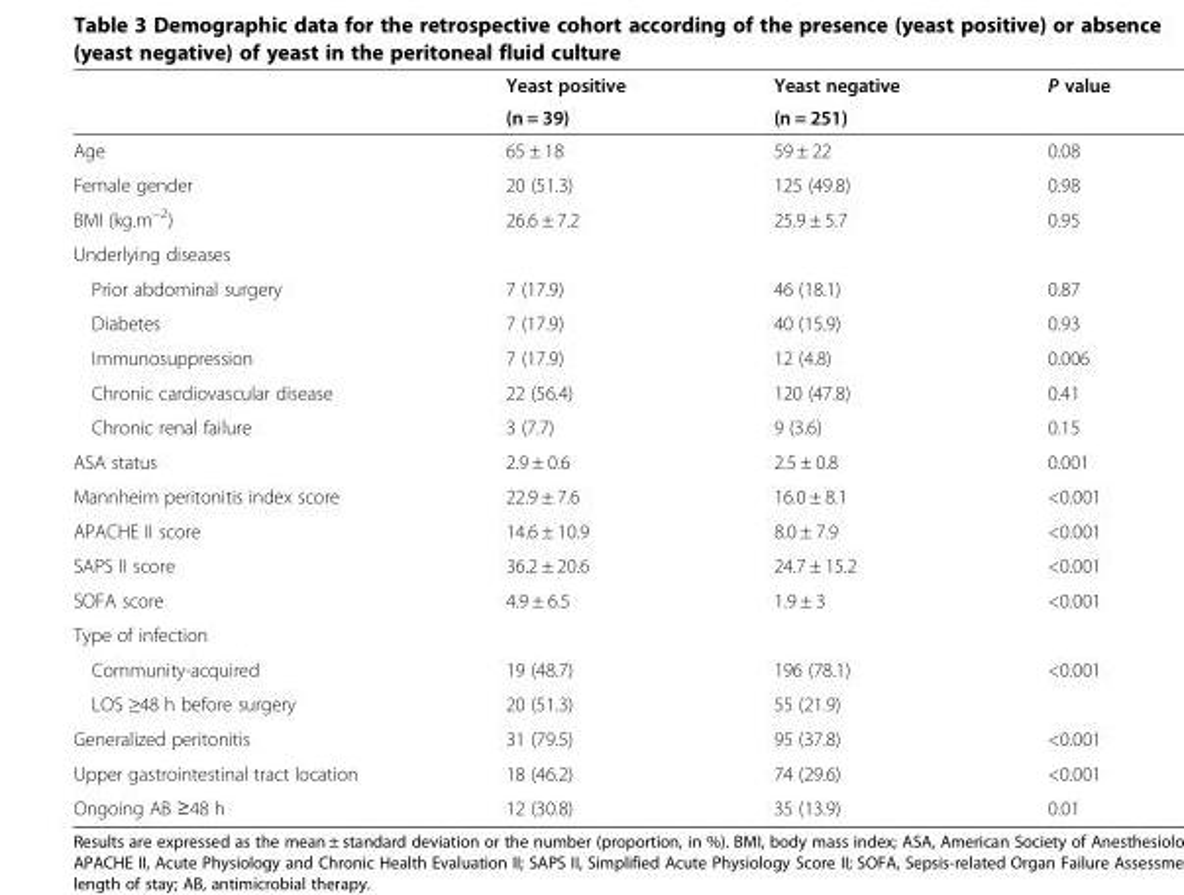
<table><thead><tr><td rowspan="2"></td><td rowspan="2">Yeast positive (n = 39)</td><td rowspan="2">Yeast negative (n = 251)</td><td rowspan="2">P value</td></tr><tr></tr></thead><tbody><tr><td>Age</td><td>65 ± 18</td><td>59 ± 22</td><td>0.08</td></tr><tr><td>Female gender</td><td>20 (51.3)</td><td>125 (49.8)</td><td>0.98</td></tr><tr><td>BMI (kg.m<sup>−2</sup>)</td><td>26.6 ± 7.2</td><td>25.9 ± 5.7</td><td>0.95</td></tr><tr><td colspan="4">Underlying diseases</td></tr><tr><td>Prior abdominal surgery</td><td>7 (17.9)</td><td>46 (18.1)</td><td>0.87</td></tr><tr><td>Diabetes</td><td>7 (17.9)</td><td>40 (15.9)</td><td>0.93</td></tr><tr><td>Immunosuppression</td><td>7 (17.9)</td><td>12 (4.8)</td><td>0.006</td></tr><tr><td>Chronic cardiovascular disease</td><td>22 (56.4)</td><td>120 (47.8)</td><td>0.41</td></tr><tr><td>Chronic renal failure</td><td>3 (7.7)</td><td>9 (3.6)</td><td>0.15</td></tr><tr><td>ASA status</td><td>2.9 ± 0.6</td><td>2.5 ± 0.8</td><td>0.001</td></tr><tr><td>Mannheim peritonitis index score</td><td>22.9 ± 7.6</td><td>16.0 ± 8.1</td><td>&lt;0.001</td></tr><tr><td>APACHE II score</td><td>14.6 ± 10.9</td><td>8.0 ± 7.9</td><td>&lt;0.001</td></tr><tr><td>SAPS II score</td><td>36.2 ± 20.6</td><td>24.7 ± 15.2</td><td>&lt;0.001</td></tr><tr><td>SOFA score</td><td>4.9 ± 6.5</td><td>1.9 ± 3</td><td>&lt;0.001</td></tr><tr><td colspan="4">Type of infection</td></tr><tr><td>Community-acquired</td><td>19 (48.7)</td><td>196 (78.1)</td><td>&lt;0.001</td></tr><tr><td>LOS ≥48 h before surgery</td><td>20 (51.3)</td><td>55 (21.9)</td><td></td></tr><tr><td>Generalized peritonitis</td><td>31 (79.5)</td><td>95 (37.8)</td><td>&lt;0.001</td></tr><tr><td>Upper gastrointestinal tract location</td><td>18 (46.2)</td><td>74 (29.6)</td><td>&lt;0.001</td></tr><tr><td>Ongoing AB ≥48 h</td><td>12 (30.8)</td><td>35 (13.9)</td><td>0.01</td></tr></tbody></table>